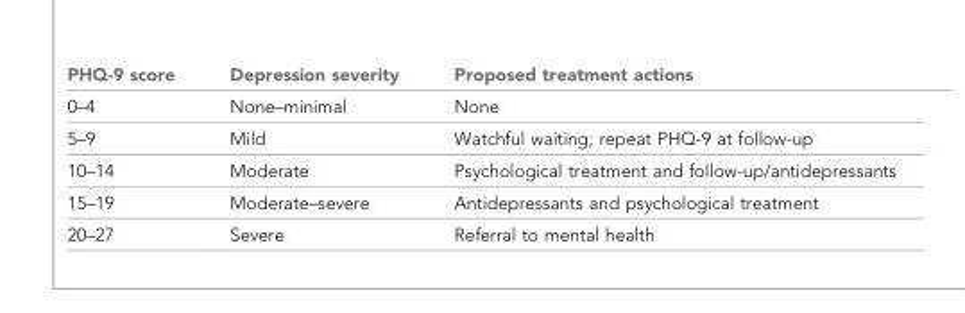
<table><thead><tr><td>PHQ-9 score</td><td>Depression severity</td><td>Proposed treatment actions</td></tr></thead><tbody><tr><td>0–4</td><td>None–minimal</td><td>None</td></tr><tr><td>5–9</td><td>Mild</td><td>Watchful waiting; repeat PHQ-9 at follow-up</td></tr><tr><td>10–14</td><td>Moderate</td><td>Psychological treatment and follow-up/antidepressants</td></tr><tr><td>15–19</td><td>Moderate–severe</td><td>Antidepressants and psychological treatment</td></tr><tr><td>20–27</td><td>Severe</td><td>Referral to mental health</td></tr></tbody></table>